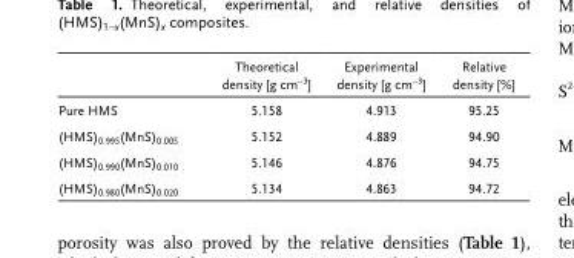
<table><thead><tr><td></td><td>Theoretical density [g cm<sup>−3</sup>]</td><td>Experimental density [g cm<sup>−3</sup>]</td><td>Relative density [%]</td></tr></thead><tbody><tr><td>Pure HMS</td><td>5.158</td><td>4.913</td><td>95.25</td></tr><tr><td>(HMS)<sub>0.995</sub>(MnS)<sub>0.005</sub></td><td>5.152</td><td>4.889</td><td>94.90</td></tr><tr><td>(HMS)<sub>0.990</sub>(MnS)<sub>0.010</sub></td><td>5.146</td><td>4.876</td><td>94.75</td></tr><tr><td>(HMS)<sub>0.980</sub>(MnS)<sub>0.020</sub></td><td>5.134</td><td>4.863</td><td>94.72</td></tr></tbody></table>